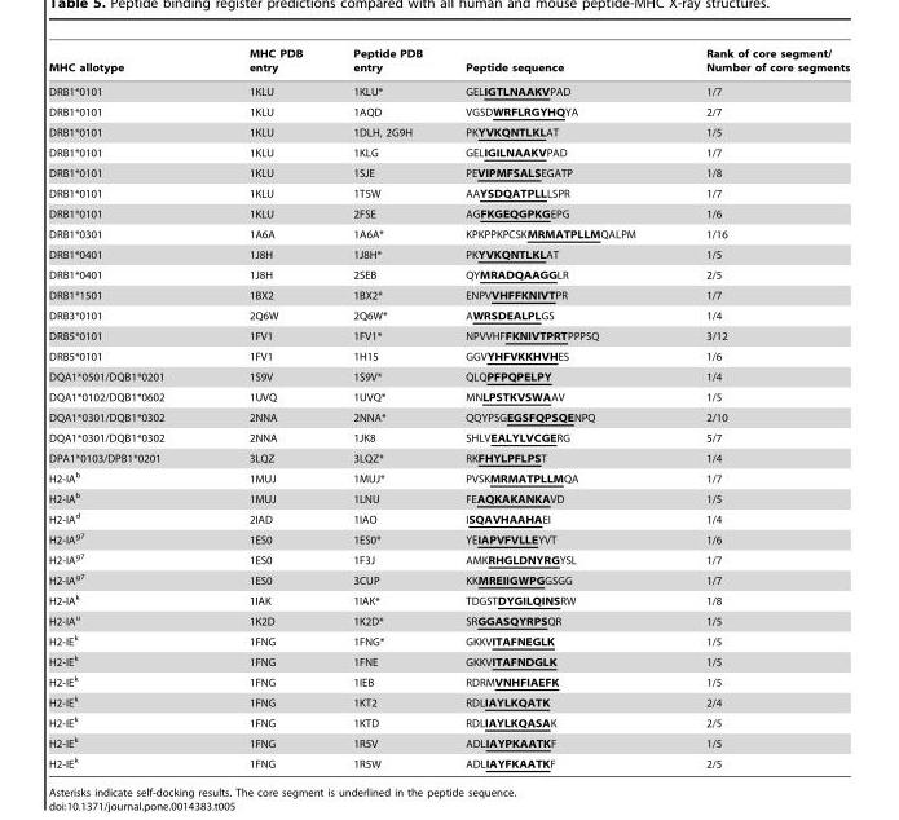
<table><thead><tr><td>MHC allotype</td><td>MHC PDB entry</td><td>Peptide PDB entry</td><td>Peptide sequence</td><td>Rank of core segment/ Number of core segments</td></tr></thead><tbody><tr><td>DRB1*0101</td><td>1KLU</td><td>1KLU*</td><td>GELIGTLNAAKVPAD</td><td>1/7</td></tr><tr><td>DRB1*0101</td><td>1KLU</td><td>1AQD</td><td>VGSDWRFLRGYHQYA</td><td>2/7</td></tr><tr><td>DRB1*0101</td><td>1KLU</td><td>1DLH, 2G9H</td><td>PKYVKQNTLKLAT</td><td>1/5</td></tr><tr><td>DRB1*0101</td><td>1KLU</td><td>1KLG</td><td>GELIGILNAAKVPAD</td><td>1/7</td></tr><tr><td>DRB1*0101</td><td>1KLU</td><td>1SJE</td><td>PEVIPMFSALSEGATP</td><td>1/8</td></tr><tr><td>DRB1*0101</td><td>1KLU</td><td>1T5W</td><td>AAYSDQATPLLLSPR</td><td>1/7</td></tr><tr><td>DRB1*0101</td><td>1KLU</td><td>2FSE</td><td>AGFKGEQGPKGEPG</td><td>1/6</td></tr><tr><td>DRB1*0301</td><td>1A6A</td><td>1A6A*</td><td>KPKPPKPCSKMRMATPLLMQALPM</td><td>1/16</td></tr><tr><td>DRB1*0401</td><td>1J8H</td><td>1J8H*</td><td>PKYVKQNTLKLAT</td><td>1/5</td></tr><tr><td>DRB1*0401</td><td>1J8H</td><td>2SEB</td><td>QYMRADQAAGGLR</td><td>2/5</td></tr><tr><td>DRB1*1501</td><td>1BX2</td><td>1BX2*</td><td>ENPVVHFFKNIVTPR</td><td>1/7</td></tr><tr><td>DRB3*0101</td><td>2Q6W</td><td>2Q6W*</td><td>AWRSDEALPLGS</td><td>1/4</td></tr><tr><td>DRB5*0101</td><td>1FV1</td><td>1FV1*</td><td>NPVVHFFKNIVTPRTPPPSQ</td><td>3/12</td></tr><tr><td>DRB5*0101</td><td>1FV1</td><td>1H15</td><td>GGVYHFVKKHVHES</td><td>1/6</td></tr><tr><td>DQA1*0501/DQB1*0201</td><td>1S9V</td><td>1S9V*</td><td>QLQPFPQPELPY</td><td>1/4</td></tr><tr><td>DQA1*0102/DQB1*0602</td><td>1UVQ</td><td>1UVQ*</td><td>MNLPSTKVSWAAV</td><td>1/5</td></tr><tr><td>DQA1*0301/DQB1*0302</td><td>2NNA</td><td>2NNA*</td><td>QQYPSGEGSFQPSQENPQ</td><td>2/10</td></tr><tr><td>DQA1*0301/DQB1*0302</td><td>2NNA</td><td>1JK8</td><td>SHLVEALYLVCGERG</td><td>5/7</td></tr><tr><td>DPA1*0103/DPB1*0201</td><td>3LQZ</td><td>3LQZ*</td><td>RKFHYLPFLPST</td><td>1/4</td></tr><tr><td>H2-IA<sup>b</sup></td><td>1MUJ</td><td>1MUJ*</td><td>PVSKMRMATPLLMQA</td><td>1/7</td></tr><tr><td>H2-IA<sup>b</sup></td><td>1MUJ</td><td>1LNU</td><td>FEAQKAKANKAVD</td><td>1/5</td></tr><tr><td>H2-IA<sup>d</sup></td><td>2IAD</td><td>1IAO</td><td>ISQAVHAAHAEI</td><td>1/4</td></tr><tr><td>H2-IA<sup>g7</sup></td><td>1ES0</td><td>1ES0*</td><td>YEIAPVFVLLEYVT</td><td>1/6</td></tr><tr><td>H2-IA<sup>g7</sup></td><td>1ES0</td><td>1F3J</td><td>AMKRHGLDNYRGYSL</td><td>1/7</td></tr><tr><td>H2-IA<sup>g7</sup></td><td>1ES0</td><td>3CUP</td><td>KKMREIIGWPGGSGG</td><td>1/7</td></tr><tr><td>H2-IA<sup>k</sup></td><td>1IAK</td><td>1IAK*</td><td>TDGSTDYGILQINSRW</td><td>1/8</td></tr><tr><td>H2-IA<sup>u</sup></td><td>1K2D</td><td>1K2D*</td><td>SRGGASQYRPSQR</td><td>1/5</td></tr><tr><td>H2-IE<sup>k</sup></td><td>1FNG</td><td>1FNG*</td><td>GKKVITAFNEGLK</td><td>1/5</td></tr><tr><td>H2-IE<sup>k</sup></td><td>1FNG</td><td>1FNE</td><td>GKKVITAFNDGLK</td><td>1/5</td></tr><tr><td>H2-IE<sup>k</sup></td><td>1FNG</td><td>1IEB</td><td>RDRMVNHFIAEFK</td><td>1/5</td></tr><tr><td>H2-IE<sup>k</sup></td><td>1FNG</td><td>1KT2</td><td>RDLIAYLKQATK</td><td>2/4</td></tr><tr><td>H2-IE<sup>k</sup></td><td>1FNG</td><td>1KTD</td><td>RDLIAYLKQASAK</td><td>2/5</td></tr><tr><td>H2-IE<sup>k</sup></td><td>1FNG</td><td>1R5V</td><td>ADLIAYPKAATKF</td><td>1/5</td></tr><tr><td>H2-IE<sup>k</sup></td><td>1FNG</td><td>1R5W</td><td>ADLIAYFKAATKF</td><td>2/5</td></tr></tbody></table>